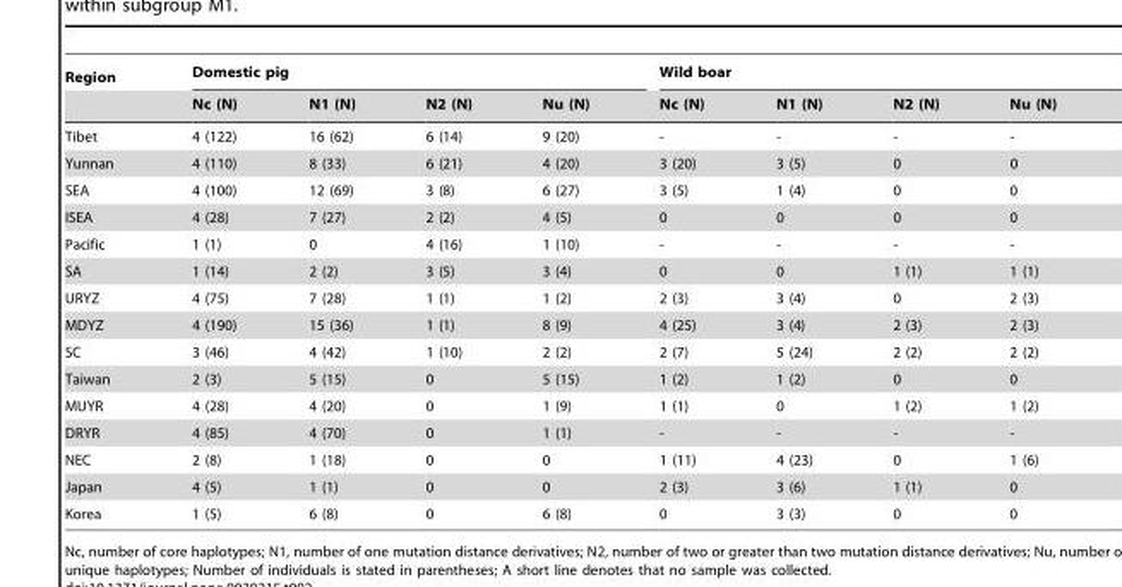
<table><thead><tr><td rowspan="2">Region</td><td colspan="4">Domestic pig</td><td colspan="4">Wild boar</td></tr><tr><td>Nc (N)</td><td>N1 (N)</td><td>N2 (N)</td><td>Nu (N)</td><td>Nc (N)</td><td>N1 (N)</td><td>N2 (N)</td><td>Nu (N)</td></tr></thead><tbody><tr><td>Tibet</td><td>4 (122)</td><td>16 (62)</td><td>6 (14)</td><td>9 (20)</td><td>-</td><td>-</td><td>-</td><td>-</td></tr><tr><td>Yunnan</td><td>4 (110)</td><td>8 (33)</td><td>6 (21)</td><td>4 (20)</td><td>3 (20)</td><td>3 (5)</td><td>0</td><td>0</td></tr><tr><td>SEA</td><td>4 (100)</td><td>12 (69)</td><td>3 (8)</td><td>6 (27)</td><td>3 (5)</td><td>1 (4)</td><td>0</td><td>0</td></tr><tr><td>ISEA</td><td>4 (28)</td><td>7 (27)</td><td>2 (2)</td><td>4 (5)</td><td>0</td><td>0</td><td>0</td><td>0</td></tr><tr><td>Pacific</td><td>1 (1)</td><td>0</td><td>4 (16)</td><td>1 (10)</td><td>-</td><td>-</td><td>-</td><td>-</td></tr><tr><td>SA</td><td>1 (14)</td><td>2 (2)</td><td>3 (5)</td><td>3 (4)</td><td>0</td><td>0</td><td>1 (1)</td><td>1 (1)</td></tr><tr><td>URYZ</td><td>4 (75)</td><td>7 (28)</td><td>1 (1)</td><td>1 (2)</td><td>2 (3)</td><td>3 (4)</td><td>0</td><td>2 (3)</td></tr><tr><td>MDYZ</td><td>4 (190)</td><td>15 (36)</td><td>1 (1)</td><td>8 (9)</td><td>4 (25)</td><td>3 (4)</td><td>2 (3)</td><td>2 (3)</td></tr><tr><td>SC</td><td>3 (46)</td><td>4 (42)</td><td>1 (10)</td><td>2 (2)</td><td>2 (7)</td><td>5 (24)</td><td>2 (2)</td><td>2 (2)</td></tr><tr><td>Taiwan</td><td>2 (3)</td><td>5 (15)</td><td>0</td><td>5 (15)</td><td>1 (2)</td><td>1 (2)</td><td>0</td><td>0</td></tr><tr><td>MUYR</td><td>4 (28)</td><td>4 (20)</td><td>0</td><td>1 (9)</td><td>1 (1)</td><td>0</td><td>1 (2)</td><td>1 (2)</td></tr><tr><td>DRYR</td><td>4 (85)</td><td>4 (70)</td><td>0</td><td>1 (1)</td><td>-</td><td>-</td><td>-</td><td>-</td></tr><tr><td>NEC</td><td>2 (8)</td><td>1 (18)</td><td>0</td><td>0</td><td>1 (11)</td><td>4 (23)</td><td>0</td><td>1 (6)</td></tr><tr><td>Japan</td><td>4 (5)</td><td>1 (1)</td><td>0</td><td>0</td><td>2 (3)</td><td>3 (6)</td><td>1 (1)</td><td>0</td></tr><tr><td>Korea</td><td>1 (5)</td><td>6 (8)</td><td>0</td><td>6 (8)</td><td>0</td><td>3 (3)</td><td>0</td><td>0</td></tr></tbody></table>